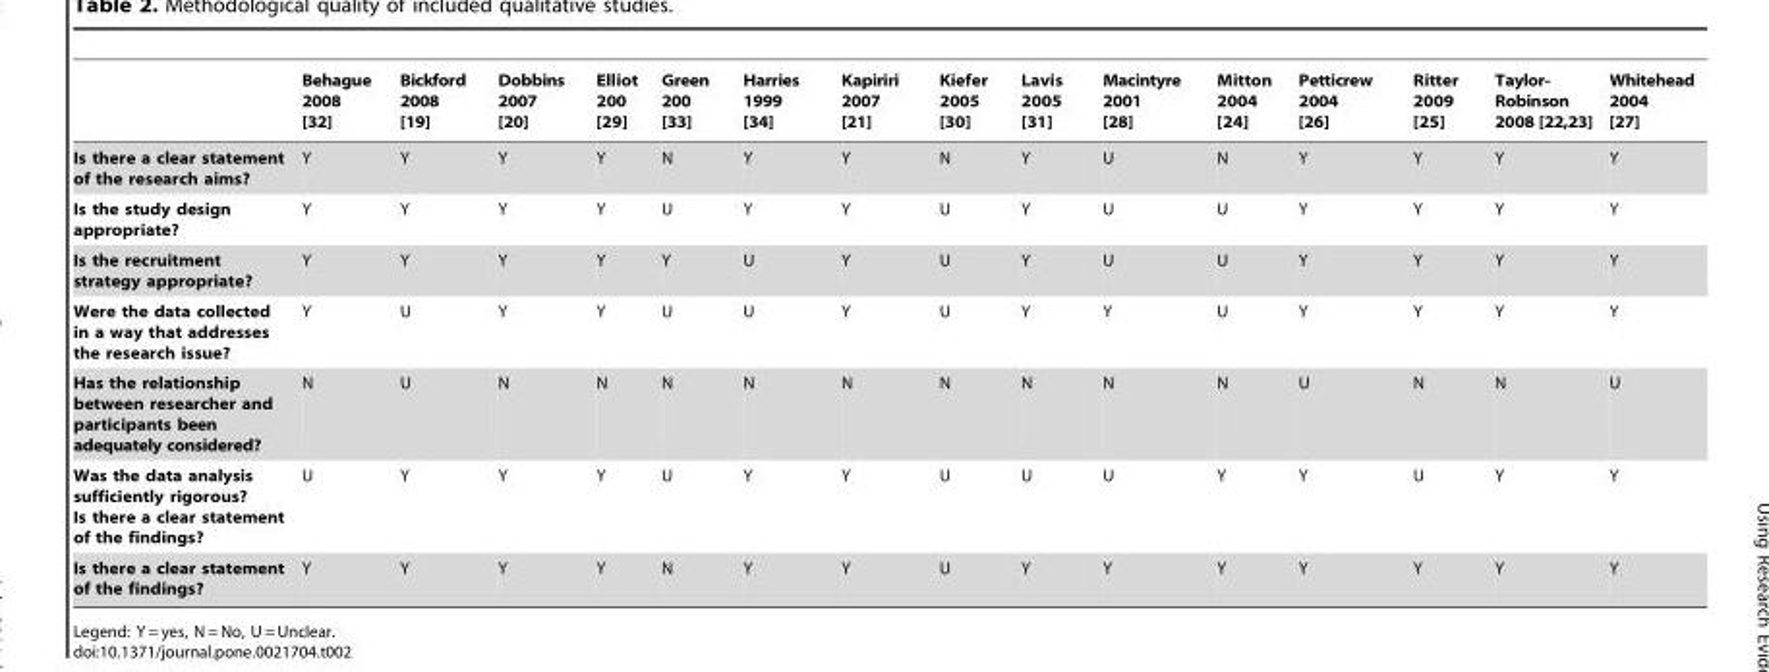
<table><thead><tr><td></td><td>Behague 2008 [32]</td><td>Bickford 2008 [19]</td><td>Dobbins 2007 [20]</td><td>Elliot 200 [29]</td><td>Green 200 [33]</td><td>Harries 1999 [34]</td><td>Kapiriri 2007 [21]</td><td>Kiefer 2005 [30]</td><td>Lavis 2005 [31]</td><td>Macintyre 2001 [28]</td><td>Mitton 2004 [24]</td><td>Petticrew 2004 [26]</td><td>Ritter 2009 [25]</td><td>Taylor- Robinson 2008 [22,23]</td><td>Whitehead 2004 [27]</td></tr></thead><tbody><tr><td>Is there a clear statement of the research aims?</td><td>Y</td><td>Y</td><td>Y</td><td>Y</td><td>N</td><td>Y</td><td>Y</td><td>N</td><td>Y</td><td>U</td><td>N</td><td>Y</td><td>Y</td><td>Y</td><td>Y</td></tr><tr><td>Is the study design appropriate?</td><td>Y</td><td>Y</td><td>Y</td><td>Y</td><td>U</td><td>Y</td><td>Y</td><td>U</td><td>Y</td><td>U</td><td>U</td><td>Y</td><td>Y</td><td>Y</td><td>Y</td></tr><tr><td>Is the recruitment strategy appropriate?</td><td>Y</td><td>Y</td><td>Y</td><td>Y</td><td>Y</td><td>U</td><td>Y</td><td>U</td><td>Y</td><td>U</td><td>U</td><td>Y</td><td>Y</td><td>Y</td><td>Y</td></tr><tr><td>Were the data collected in a way that addresses the research issue?</td><td>Y</td><td>U</td><td>Y</td><td>Y</td><td>U</td><td>U</td><td>Y</td><td>U</td><td>Y</td><td>Y</td><td>U</td><td>Y</td><td>Y</td><td>Y</td><td>Y</td></tr><tr><td>Has the relationship between researcher and participants been adequately considered?</td><td>N</td><td>U</td><td>N</td><td>N</td><td>N</td><td>N</td><td>N</td><td>N</td><td>N</td><td>N</td><td>N</td><td>U</td><td>N</td><td>N</td><td>U</td></tr><tr><td>Was the data analysis sufficiently rigorous? Is there a clear statement of the findings?</td><td>U</td><td>Y</td><td>Y</td><td>Y</td><td>U</td><td>Y</td><td>Y</td><td>U</td><td>U</td><td>U</td><td>Y</td><td>Y</td><td>U</td><td>Y</td><td>Y</td></tr><tr><td>Is there a clear statement of the findings?</td><td>Y</td><td>Y</td><td>Y</td><td>Y</td><td>N</td><td>Y</td><td>Y</td><td>U</td><td>Y</td><td>Y</td><td>Y</td><td>Y</td><td>Y</td><td>Y</td><td>Y</td></tr></tbody></table>